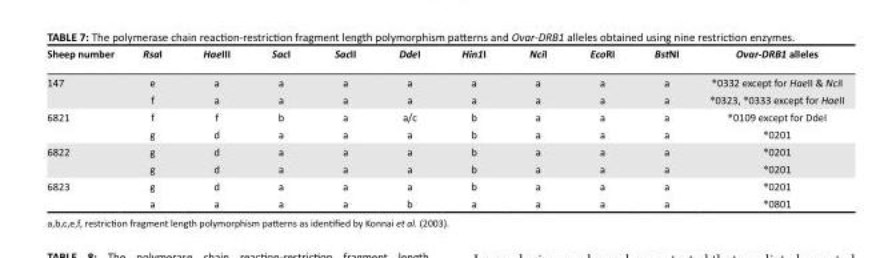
<table><thead><tr><td>Sheep number</td><td>RsaI</td><td>HaeIII</td><td>SacI</td><td>SacII</td><td>DdeI</td><td>Hin1I</td><td>NciI</td><td>EcoRI</td><td>BstNI</td><td>Ovar-DRB1 alleles</td></tr></thead><tbody><tr><td rowspan="2">147</td><td>e</td><td>a</td><td>a</td><td>a</td><td>a</td><td>a</td><td>a</td><td>a</td><td>a</td><td>*0332 except for HaeII &amp; NciI</td></tr><tr><td>f</td><td>a</td><td>a</td><td>a</td><td>a</td><td>a</td><td>a</td><td>a</td><td>a</td><td>*0323, *0333 except for HaeII</td></tr><tr><td rowspan="2">6821</td><td>f</td><td>f</td><td>b</td><td>a</td><td>a/c</td><td>b</td><td>a</td><td>a</td><td>a</td><td>*0109 except for DdeI</td></tr><tr><td>g</td><td>d</td><td>a</td><td>a</td><td>a</td><td>b</td><td>a</td><td>a</td><td>a</td><td>*0201</td></tr><tr><td rowspan="2">6822</td><td>g</td><td>d</td><td>a</td><td>a</td><td>a</td><td>b</td><td>a</td><td>a</td><td>a</td><td>*0201</td></tr><tr><td>g</td><td>d</td><td>a</td><td>a</td><td>a</td><td>b</td><td>a</td><td>a</td><td>a</td><td>*0201</td></tr><tr><td rowspan="2">6823</td><td>g</td><td>d</td><td>a</td><td>a</td><td>a</td><td>b</td><td>a</td><td>a</td><td>a</td><td>*0201</td></tr><tr><td>a</td><td>a</td><td>a</td><td>a</td><td>b</td><td>a</td><td>a</td><td>a</td><td>a</td><td>*0801</td></tr></tbody></table>